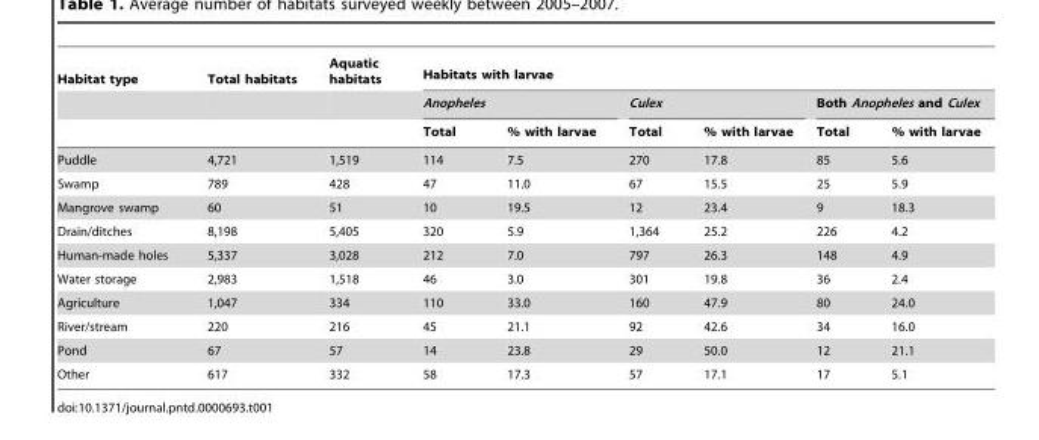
<table><thead><tr><td rowspan="3">Habitat type</td><td rowspan="3">Total habitats</td><td rowspan="3">Aquatic habitats</td><td colspan="6">Habitats with larvae</td></tr><tr><td colspan="2">Anopheles</td><td colspan="2">Culex</td><td colspan="2">Both Anopheles and Culex</td></tr><tr><td>Total</td><td>% with larvae</td><td>Total</td><td>% with larvae</td><td>Total</td><td>% with larvae</td></tr></thead><tbody><tr><td>Puddle</td><td>4,721</td><td>1,519</td><td>114</td><td>7.5</td><td>270</td><td>17.8</td><td>85</td><td>5.6</td></tr><tr><td>Swamp</td><td>789</td><td>428</td><td>47</td><td>11.0</td><td>67</td><td>15.5</td><td>25</td><td>5.9</td></tr><tr><td>Mangrove swamp</td><td>60</td><td>51</td><td>10</td><td>19.5</td><td>12</td><td>23.4</td><td>9</td><td>18.3</td></tr><tr><td>Drain/ditches</td><td>8,198</td><td>5,405</td><td>320</td><td>5.9</td><td>1,364</td><td>25.2</td><td>226</td><td>4.2</td></tr><tr><td>Human-made holes</td><td>5,337</td><td>3,028</td><td>212</td><td>7.0</td><td>797</td><td>26.3</td><td>148</td><td>4.9</td></tr><tr><td>Water storage</td><td>2,983</td><td>1,518</td><td>46</td><td>3.0</td><td>301</td><td>19.8</td><td>36</td><td>2.4</td></tr><tr><td>Agriculture</td><td>1,047</td><td>334</td><td>110</td><td>33.0</td><td>160</td><td>47.9</td><td>80</td><td>24.0</td></tr><tr><td>River/stream</td><td>220</td><td>216</td><td>45</td><td>21.1</td><td>92</td><td>42.6</td><td>34</td><td>16.0</td></tr><tr><td>Pond</td><td>67</td><td>57</td><td>14</td><td>23.8</td><td>29</td><td>50.0</td><td>12</td><td>21.1</td></tr><tr><td>Other</td><td>617</td><td>332</td><td>58</td><td>17.3</td><td>57</td><td>17.1</td><td>17</td><td>5.1</td></tr></tbody></table>